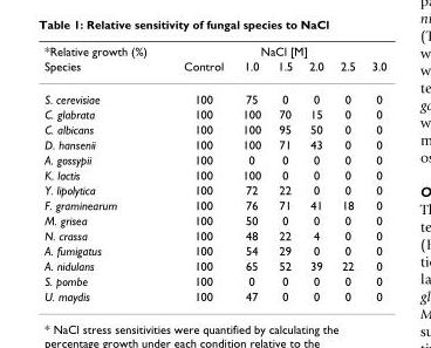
<table><thead><tr><td rowspan="2">*Relative growth (%) Species</td><td colspan="6">NaCl [M]</td></tr><tr><td>Control</td><td>1.0</td><td>1.5</td><td>2.0</td><td>2.5</td><td>3.0</td></tr></thead><tbody><tr><td>S. cerevisiae</td><td>100</td><td>75</td><td>0</td><td>0</td><td>0</td><td>0</td></tr><tr><td>C. glabrata</td><td>100</td><td>100</td><td>70</td><td>15</td><td>0</td><td>0</td></tr><tr><td>C. albicans</td><td>100</td><td>100</td><td>95</td><td>50</td><td>0</td><td>0</td></tr><tr><td>D. hansenii</td><td>100</td><td>100</td><td>71</td><td>43</td><td>0</td><td>0</td></tr><tr><td>A. gossypii</td><td>100</td><td>0</td><td>0</td><td>0</td><td>0</td><td>0</td></tr><tr><td>K. lactis</td><td>100</td><td>100</td><td>0</td><td>0</td><td>0</td><td>0</td></tr><tr><td>Y. lipolytica</td><td>100</td><td>72</td><td>22</td><td>0</td><td>0</td><td>0</td></tr><tr><td>F. graminearum</td><td>100</td><td>76</td><td>71</td><td>41</td><td>18</td><td>0</td></tr><tr><td>M. grisea</td><td>100</td><td>50</td><td>0</td><td>0</td><td>0</td><td>0</td></tr><tr><td>N. crassa</td><td>100</td><td>48</td><td>22</td><td>4</td><td>0</td><td>0</td></tr><tr><td>A. fumigatus</td><td>100</td><td>54</td><td>29</td><td>0</td><td>0</td><td>0</td></tr><tr><td>A. nidulans</td><td>100</td><td>65</td><td>52</td><td>39</td><td>22</td><td>0</td></tr><tr><td>S. pombe</td><td>100</td><td>0</td><td>0</td><td>0</td><td>0</td><td>0</td></tr><tr><td>U. maydis</td><td>100</td><td>47</td><td>0</td><td>0</td><td>0</td><td>0</td></tr></tbody></table>